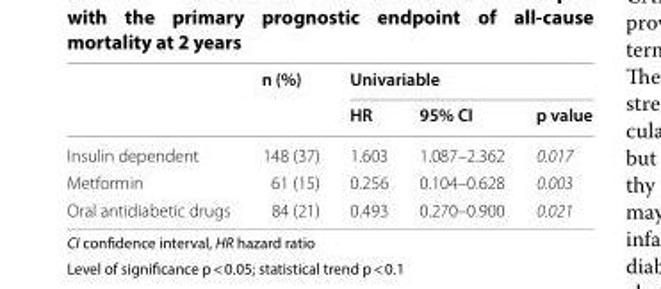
<table><thead><tr><td rowspan="2"></td><td rowspan="2">n (%)</td><td colspan="3">Univariable</td></tr><tr><td>HR</td><td>95% CI</td><td>p value</td></tr></thead><tbody><tr><td>Insulin dependent</td><td>148 (37)</td><td>1.603</td><td>1.087–2.362</td><td>0.017</td></tr><tr><td>Metformin</td><td>61 (15)</td><td>0.256</td><td>0.104–0.628</td><td>0.003</td></tr><tr><td>Oral antidiabetic drugs</td><td>84 (21)</td><td>0.493</td><td>0.270–0.900</td><td>0.021</td></tr></tbody></table>